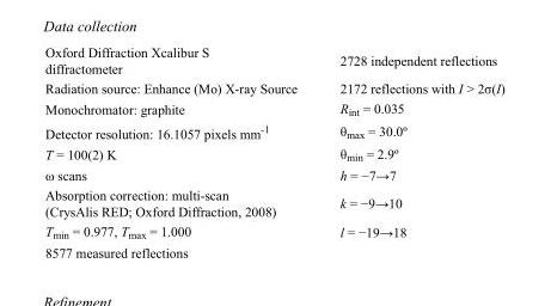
<table><tbody><tr><td>Oxford Diffraction Xcalibur S diffractometer</td><td>2728 independent reflections</td></tr><tr><td>Radiation source: Enhance (Mo) X-ray Source</td><td>2172 reflections with I &gt; 2σ(I)</td></tr><tr><td>Monochromator: graphite</td><td>R<sub>int</sub> = 0.035</td></tr><tr><td>Detector resolution: 16.1057 pixels mm<sup>-1</sup></td><td>θ<sub>max</sub> = 30.0º</td></tr><tr><td>T = 100(2) K</td><td>θ<sub>min</sub> = 2.9º</td></tr><tr><td>ω scans</td><td>h = −7→7</td></tr><tr><td>Absorption correction: multi-scan (CrysAlis RED; Oxford Diffraction, 2008)</td><td>k = −9→10</td></tr><tr><td>T<sub>min</sub> = 0.977, T<sub>max</sub> = 1.000</td><td>l = −19→18</td></tr><tr><td>8577 measured reflections</td><td></td></tr></tbody></table>